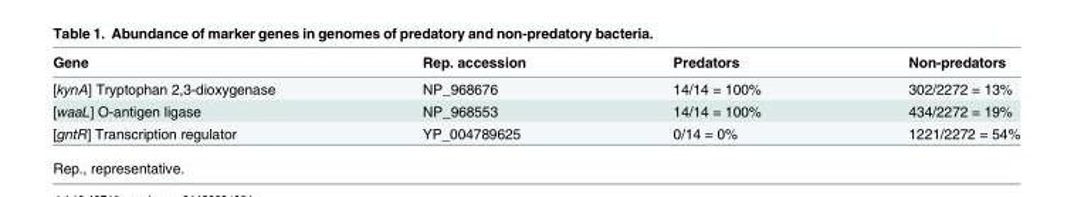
<table><thead><tr><td>Gene</td><td>Rep. accession</td><td>Predators</td><td>Non-predators</td></tr></thead><tbody><tr><td>[kynA] Tryptophan 2,3-dioxygenase</td><td>NP_968676</td><td>14/14 = 100%</td><td>302/2272 = 13%</td></tr><tr><td>[waaL] O-antigen ligase</td><td>NP_968553</td><td>14/14 = 100%</td><td>434/2272 = 19%</td></tr><tr><td>[gntR] Transcription regulator</td><td>YP_004789625</td><td>0/14 = 0%</td><td>1221/2272 = 54%</td></tr></tbody></table>